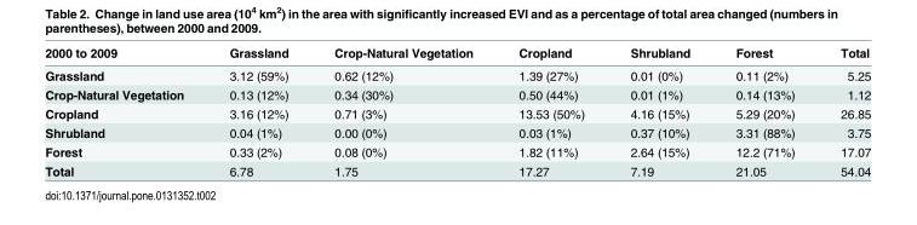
<table><thead><tr><td>2000 to 2009</td><td>Grassland</td><td>Crop-Natural Vegetation</td><td>Cropland</td><td>Shrubland</td><td>Forest</td><td>Total</td></tr></thead><tbody><tr><td>Grassland</td><td>3.12 (59%)</td><td>0.62 (12%)</td><td>1.39 (27%)</td><td>0.01 (0%)</td><td>0.11 (2%)</td><td>5.25</td></tr><tr><td>Crop-Natural Vegetation</td><td>0.13 (12%)</td><td>0.34 (30%)</td><td>0.50 (44%)</td><td>0.01 (1%)</td><td>0.14 (13%)</td><td>1.12</td></tr><tr><td>Cropland</td><td>3.16 (12%)</td><td>0.71 (3%)</td><td>13.53 (50%)</td><td>4.16 (15%)</td><td>5.29 (20%)</td><td>26.85</td></tr><tr><td>Shrubland</td><td>0.04 (1%)</td><td>0.00 (0%)</td><td>0.03 (1%)</td><td>0.37 (10%)</td><td>3.31 (88%)</td><td>3.75</td></tr><tr><td>Forest</td><td>0.33 (2%)</td><td>0.08 (0%)</td><td>1.82 (11%)</td><td>2.64 (15%)</td><td>12.2 (71%)</td><td>17.07</td></tr><tr><td>Total</td><td>6.78</td><td>1.75</td><td>17.27</td><td>7.19</td><td>21.05</td><td>54.04</td></tr></tbody></table>